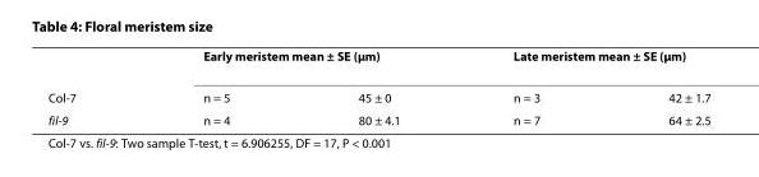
<table><thead><tr><td rowspan="2">Col-7</td><td colspan="2">Early meristem mean ± SE (μm)</td><td colspan="2">Late meristem mean ± SE (μm)</td></tr><tr><td>n = 5</td><td>45 ± 0</td><td>n = 3</td><td>42 ± 1.7</td></tr></thead><tbody><tr><td>fil-9</td><td>n = 4</td><td>80 ± 4.1</td><td>n = 7</td><td>64 ± 2.5</td></tr></tbody></table>